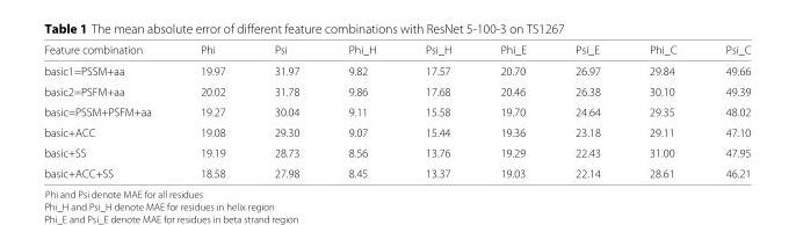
<table><thead><tr><td>Feature combination</td><td>Phi</td><td>Psi</td><td>Phi_H</td><td>Psi_H</td><td>Phi_E</td><td>Psi_E</td><td>Phi_C</td><td>Psi_C</td></tr></thead><tbody><tr><td>basic1=PSSM+aa</td><td>19.97</td><td>31.97</td><td>9.82</td><td>17.57</td><td>20.70</td><td>26.97</td><td>29.84</td><td>49.66</td></tr><tr><td>basic2=PSFM+aa</td><td>20.02</td><td>31.78</td><td>9.86</td><td>17.68</td><td>20.46</td><td>26.38</td><td>30.10</td><td>49.39</td></tr><tr><td>basic=PSSM+PSFM+aa</td><td>19.27</td><td>30.04</td><td>9.11</td><td>15.58</td><td>19.70</td><td>24.64</td><td>29.35</td><td>48.02</td></tr><tr><td>basic+ACC</td><td>19.08</td><td>29.30</td><td>9.07</td><td>15.44</td><td>19.36</td><td>23.18</td><td>29.11</td><td>47.10</td></tr><tr><td>basic+SS</td><td>19.19</td><td>28.73</td><td>8.56</td><td>13.76</td><td>19.29</td><td>22.43</td><td>31.00</td><td>47.95</td></tr><tr><td>basic+ACC+SS</td><td>18.58</td><td>27.98</td><td>8.45</td><td>13.37</td><td>19.03</td><td>22.14</td><td>28.61</td><td>46.21</td></tr></tbody></table>